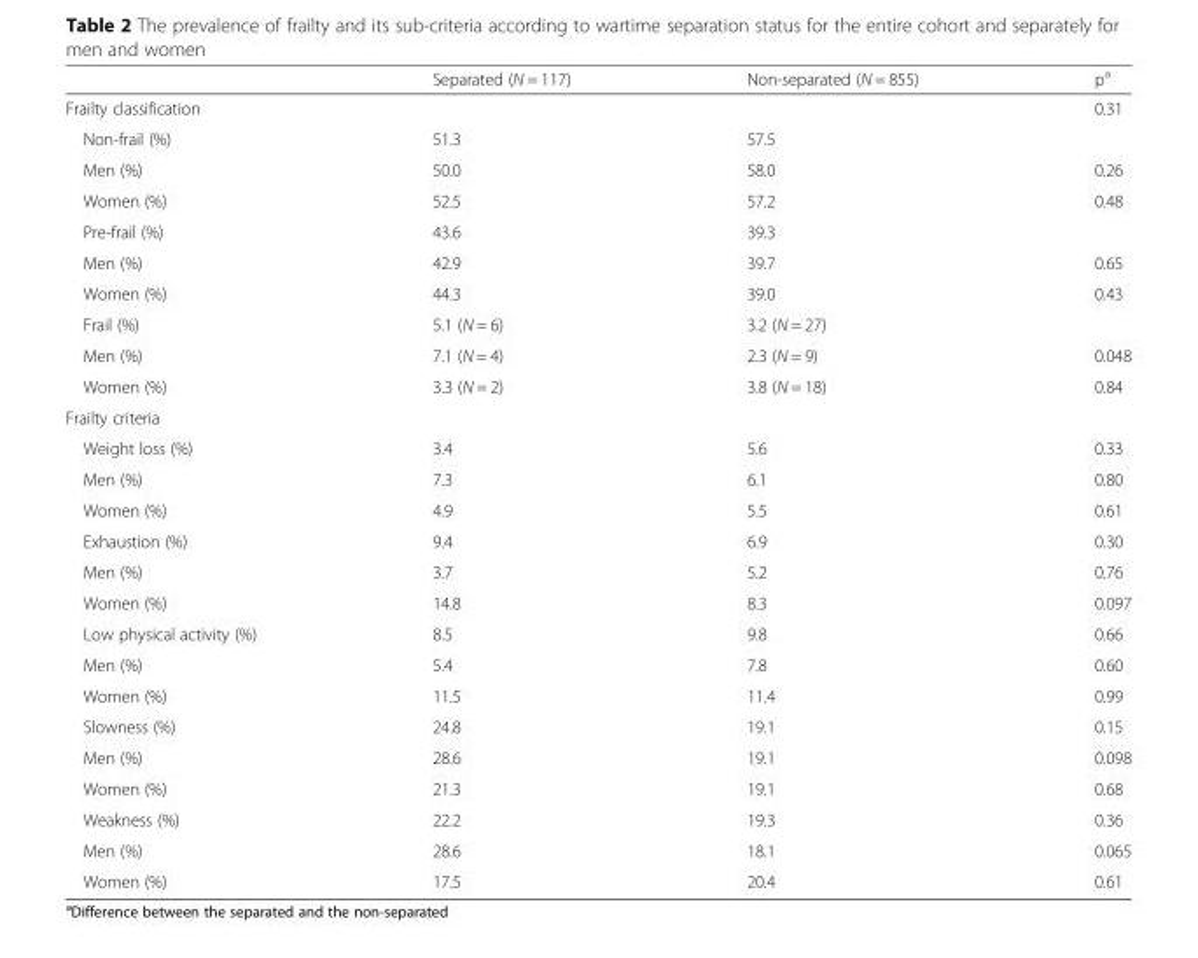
<table><thead><tr><td></td><td>Separated (N = 117)</td><td>Non-separated (N = 855)</td><td>p<sup>a</sup></td></tr></thead><tbody><tr><td colspan="3">Frailty classification</td><td>0.31</td></tr><tr><td>Non-frail (%)</td><td>51.3</td><td>57.5</td><td></td></tr><tr><td>Men (%)</td><td>50.0</td><td>58.0</td><td>0.26</td></tr><tr><td>Women (%)</td><td>52.5</td><td>57.2</td><td>0.48</td></tr><tr><td>Pre-frail (%)</td><td>43.6</td><td>39.3</td><td></td></tr><tr><td>Men (%)</td><td>42.9</td><td>39.7</td><td>0.65</td></tr><tr><td>Women (%)</td><td>44.3</td><td>39.0</td><td>0.43</td></tr><tr><td>Frail (%)</td><td>5.1 (N = 6)</td><td>3.2 (N = 27)</td><td></td></tr><tr><td>Men (%)</td><td>7.1 (N = 4)</td><td>2.3 (N = 9)</td><td>0.048</td></tr><tr><td>Women (%)</td><td>3.3 (N = 2)</td><td>3.8 (N = 18)</td><td>0.84</td></tr><tr><td colspan="4">Frailty criteria</td></tr><tr><td>Weight loss (%)</td><td>3.4</td><td>5.6</td><td>0.33</td></tr><tr><td>Men (%)</td><td>7.3</td><td>6.1</td><td>0.80</td></tr><tr><td>Women (%)</td><td>4.9</td><td>5.5</td><td>0.61</td></tr><tr><td>Exhaustion (%)</td><td>9.4</td><td>6.9</td><td>0.30</td></tr><tr><td>Men (%)</td><td>3.7</td><td>5.2</td><td>0.76</td></tr><tr><td>Women (%)</td><td>14.8</td><td>8.3</td><td>0.097</td></tr><tr><td>Low physical activity (%)</td><td>8.5</td><td>9.8</td><td>0.66</td></tr><tr><td>Men (%)</td><td>5.4</td><td>7.8</td><td>0.60</td></tr><tr><td>Women (%)</td><td>11.5</td><td>11.4</td><td>0.99</td></tr><tr><td>Slowness (%)</td><td>24.8</td><td>19.1</td><td>0.15</td></tr><tr><td>Men (%)</td><td>28.6</td><td>19.1</td><td>0.098</td></tr><tr><td>Women (%)</td><td>21.3</td><td>19.1</td><td>0.68</td></tr><tr><td>Weakness (%)</td><td>22.2</td><td>19.3</td><td>0.36</td></tr><tr><td>Men (%)</td><td>28.6</td><td>18.1</td><td>0.065</td></tr><tr><td>Women (%)</td><td>17.5</td><td>20.4</td><td>0.61</td></tr></tbody></table>